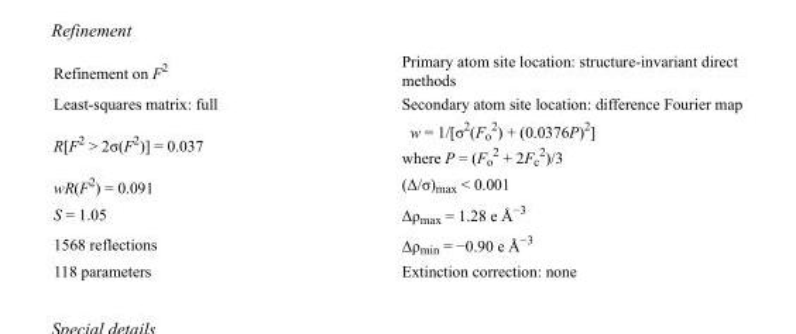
<table><tbody><tr><td>Refinement on F<sup>2</sup></td><td>Primary atom site location: structure-invariant direct methods</td></tr><tr><td>Least-squares matrix: full</td><td>Secondary atom site location: difference Fourier map</td></tr><tr><td>R[F<sup>2</sup> &gt; 2σ(F<sup>2</sup>)] = 0.037</td><td>w = 1/[σ<sup>2</sup>(F<sub>o</sub> <sup>2</sup>) + (0.0376P)<sup>2</sup>] where P = (F<sub>o</sub> <sup>2</sup> + 2F<sub>c</sub> <sup>2</sup>)/3</td></tr><tr><td>wR(F<sup>2</sup>) = 0.091</td><td>(Δ/σ)<sub>max</sub> &lt; 0.001</td></tr><tr><td>S = 1.05</td><td>Δρ<sub>max</sub> = 1.28 e Å<sup>−3</sup></td></tr><tr><td>1568 reflections</td><td>Δρ<sub>min</sub> = −0.90 e Å<sup>−3</sup></td></tr><tr><td>118 parameters</td><td>Extinction correction: none</td></tr></tbody></table>